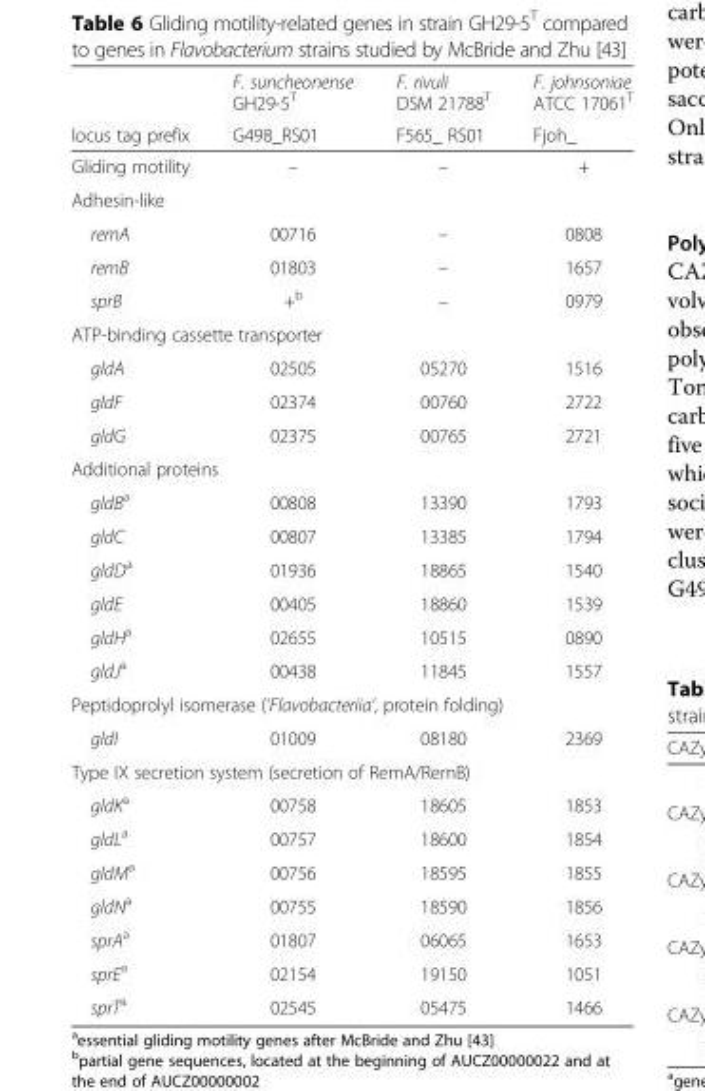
<table><thead><tr><td rowspan="2">locus tag prefix</td><td rowspan="2">F. suncheonense GH29-5<sup>T</sup> G498_RS01</td><td rowspan="2">F. rivuli DSM 21788<sup>T</sup> F565_ RS01</td><td rowspan="2">F. johnsoniae ATCC 17061<sup>T</sup> Fjoh_</td></tr><tr></tr></thead><tbody><tr><td>Gliding motility</td><td>–</td><td>–</td><td>+</td></tr><tr><td colspan="4">Adhesin-like</td></tr><tr><td>remA</td><td>00716</td><td>–</td><td>0808</td></tr><tr><td>remB</td><td>01803</td><td>–</td><td>1657</td></tr><tr><td>sprB</td><td>+<sup>b</sup></td><td>–</td><td>0979</td></tr><tr><td colspan="4">ATP-binding cassette transporter</td></tr><tr><td>gldA</td><td>02505</td><td>05270</td><td>1516</td></tr><tr><td>gldF</td><td>02374</td><td>00760</td><td>2722</td></tr><tr><td>gldG</td><td>02375</td><td>00765</td><td>2721</td></tr><tr><td colspan="4">Additional proteins</td></tr><tr><td>gldB<sup>a</sup></td><td>00808</td><td>13390</td><td>1793</td></tr><tr><td>gldC</td><td>00807</td><td>13385</td><td>1794</td></tr><tr><td>gldD<sup>a</sup></td><td>01936</td><td>18865</td><td>1540</td></tr><tr><td>gldE</td><td>00405</td><td>18860</td><td>1539</td></tr><tr><td>gldH<sup>a</sup></td><td>02655</td><td>10515</td><td>0890</td></tr><tr><td>gldJ<sup>a</sup></td><td>00438</td><td>11845</td><td>1557</td></tr><tr><td colspan="4">Peptidoprolyl isomerase (‘Flavobacteriia’, protein folding)</td></tr><tr><td>gldI</td><td>01009</td><td>08180</td><td>2369</td></tr><tr><td colspan="4">Type IX secretion system (secretion of RemA/RemB)</td></tr><tr><td>gldK<sup>a</sup></td><td>00758</td><td>18605</td><td>1853</td></tr><tr><td>gldL<sup>a</sup></td><td>00757</td><td>18600</td><td>1854</td></tr><tr><td>gldM<sup>a</sup></td><td>00756</td><td>18595</td><td>1855</td></tr><tr><td>gldN<sup>a</sup></td><td>00755</td><td>18590</td><td>1856</td></tr><tr><td>sprA<sup>a</sup></td><td>01807</td><td>06065</td><td>1653</td></tr><tr><td>sprE<sup>a</sup></td><td>02154</td><td>19150</td><td>1051</td></tr><tr><td>sprT<sup>a</sup></td><td>02545</td><td>05475</td><td>1466</td></tr></tbody></table>